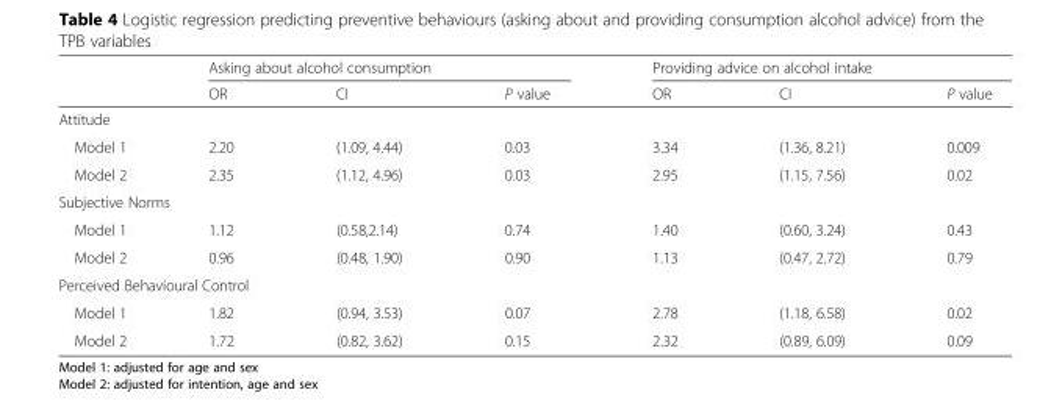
<table><thead><tr><td rowspan="2"></td><td colspan="3">Asking about alcohol consumption</td><td colspan="3">Providing advice on alcohol intake</td></tr><tr><td>OR</td><td>CI</td><td>P value</td><td>OR</td><td>CI</td><td>P value</td></tr></thead><tbody><tr><td colspan="7">Attitude</td></tr><tr><td>Model 1</td><td>2.20</td><td>(1.09, 4.44)</td><td>0.03</td><td>3.34</td><td>(1.36, 8.21)</td><td>0.009</td></tr><tr><td>Model 2</td><td>2.35</td><td>(1.12, 4.96)</td><td>0.03</td><td>2.95</td><td>(1.15, 7.56)</td><td>0.02</td></tr><tr><td colspan="7">Subjective Norms</td></tr><tr><td>Model 1</td><td>1.12</td><td>(0.58,2.14)</td><td>0.74</td><td>1.40</td><td>(0.60, 3.24)</td><td>0.43</td></tr><tr><td>Model 2</td><td>0.96</td><td>(0.48, 1.90)</td><td>0.90</td><td>1.13</td><td>(0.47, 2.72)</td><td>0.79</td></tr><tr><td colspan="7">Perceived Behavioural Control</td></tr><tr><td>Model 1</td><td>1.82</td><td>(0.94, 3.53)</td><td>0.07</td><td>2.78</td><td>(1.18, 6.58)</td><td>0.02</td></tr><tr><td>Model 2</td><td>1.72</td><td>(0.82, 3.62)</td><td>0.15</td><td>2.32</td><td>(0.89, 6.09)</td><td>0.09</td></tr></tbody></table>